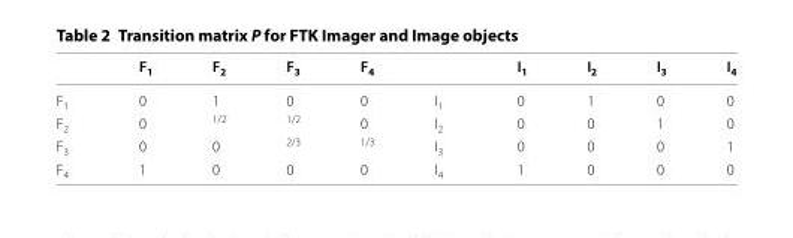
<table><thead><tr><td></td><td>F<sub>1</sub></td><td>F<sub>2</sub></td><td>F<sub>3</sub></td><td>F<sub>4</sub></td><td></td><td>I<sub>1</sub></td><td>I<sub>2</sub></td><td>I<sub>3</sub></td><td>I<sub>4</sub></td></tr></thead><tbody><tr><td>F<sub>1</sub></td><td>0</td><td>1</td><td>0</td><td>0</td><td>I<sub>1</sub></td><td>0</td><td>1</td><td>0</td><td>0</td></tr><tr><td>F<sub>2</sub></td><td>0</td><td><sup>1/2</sup></td><td><sup>1/2</sup></td><td>0</td><td>I<sub>2</sub></td><td>0</td><td>0</td><td>1</td><td>0</td></tr><tr><td>F<sub>3</sub></td><td>0</td><td>0</td><td><sup>2/3</sup></td><td><sup>1/3</sup></td><td>I<sub>3</sub></td><td>0</td><td>0</td><td>0</td><td>1</td></tr><tr><td>F<sub>4</sub></td><td>1</td><td>0</td><td>0</td><td>0</td><td>I<sub>4</sub></td><td>1</td><td>0</td><td>0</td><td>0</td></tr></tbody></table>